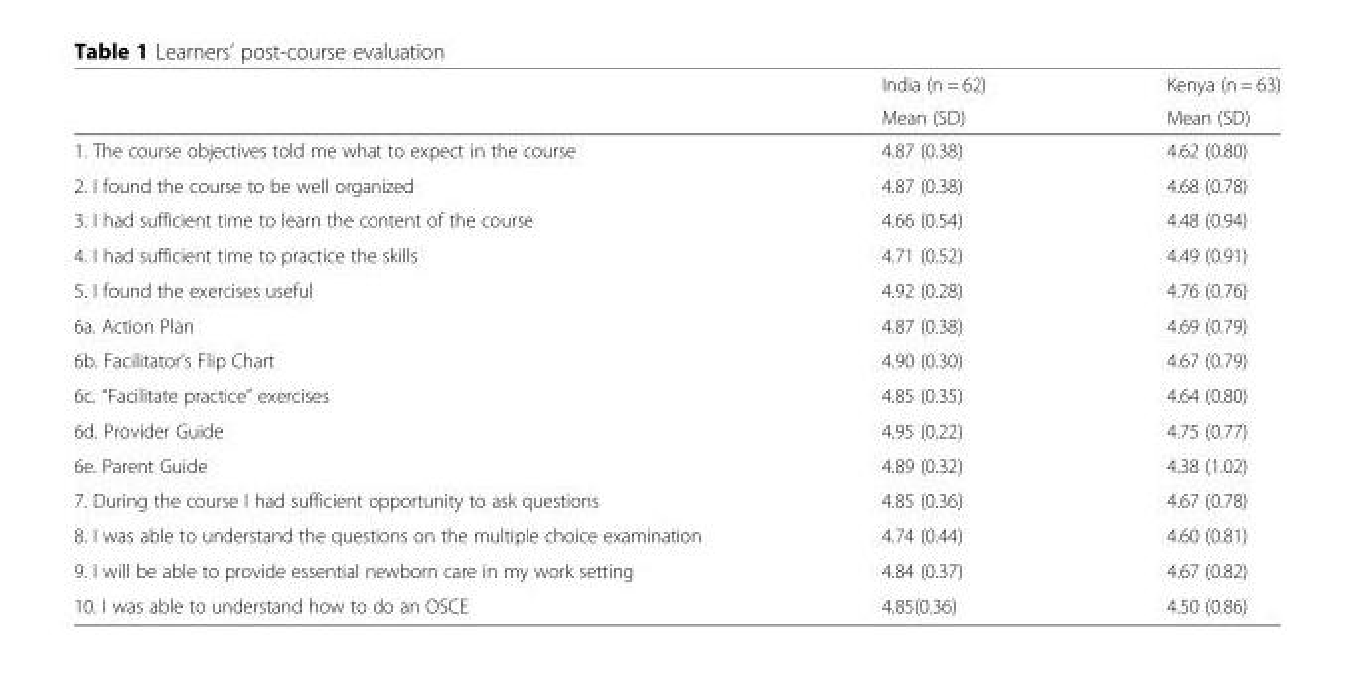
<table><thead><tr><td rowspan="2"></td><td rowspan="2">India (n = 62) Mean (SD)</td><td rowspan="2">Kenya (n = 63) Mean (SD)</td></tr><tr></tr></thead><tbody><tr><td>1. The course objectives told me what to expect in the course</td><td>4.87 (0.38)</td><td>4.62 (0.80)</td></tr><tr><td>2. I found the course to be well organized</td><td>4.87 (0.38)</td><td>4.68 (0.78)</td></tr><tr><td>3. I had sufficient time to learn the content of the course</td><td>4.66 (0.54)</td><td>4.48 (0.94)</td></tr><tr><td>4. I had sufficient time to practice the skills</td><td>4.71 (0.52)</td><td>4.49 (0.91)</td></tr><tr><td>5. I found the exercises useful</td><td>4.92 (0.28)</td><td>4.76 (0.76)</td></tr><tr><td>6a. Action Plan</td><td>4.87 (0.38)</td><td>4.69 (0.79)</td></tr><tr><td>6b. Facilitator’s Flip Chart</td><td>4.90 (0.30)</td><td>4.67 (0.79)</td></tr><tr><td>6c. “Facilitate practice” exercises</td><td>4.85 (0.35)</td><td>4.64 (0.80)</td></tr><tr><td>6d. Provider Guide</td><td>4.95 (0.22)</td><td>4.75 (0.77)</td></tr><tr><td>6e. Parent Guide</td><td>4.89 (0.32)</td><td>4.38 (1.02)</td></tr><tr><td>7. During the course I had sufficient opportunity to ask questions</td><td>4.85 (0.36)</td><td>4.67 (0.78)</td></tr><tr><td>8. I was able to understand the questions on the multiple choice examination</td><td>4.74 (0.44)</td><td>4.60 (0.81)</td></tr><tr><td>9. I will be able to provide essential newborn care in my work setting</td><td>4.84 (0.37)</td><td>4.67 (0.82)</td></tr><tr><td>10. I was able to understand how to do an OSCE</td><td>4.85(0.36)</td><td>4.50 (0.86)</td></tr></tbody></table>